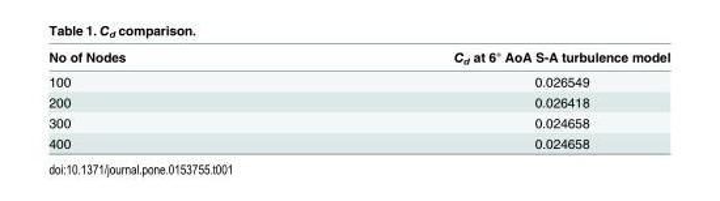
<table><thead><tr><td>No of Nodes</td><td>C<sub>d</sub> at 6° AoA S-A turbulence model</td></tr></thead><tbody><tr><td>100</td><td>0.026549</td></tr><tr><td>200</td><td>0.026418</td></tr><tr><td>300</td><td>0.024658</td></tr><tr><td>400</td><td>0.024658</td></tr></tbody></table>